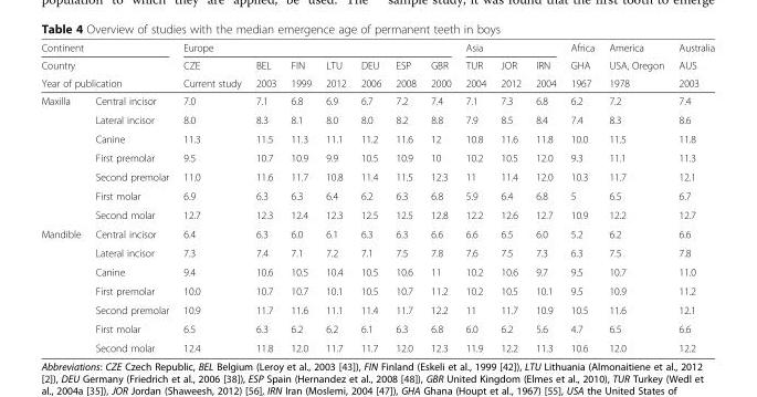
<table><thead><tr><td colspan="2">Continent</td><td colspan="7">Europe</td><td colspan="3">Asia</td><td rowspan="3">Africa GHA 1967</td><td rowspan="3">America USA, Oregon 1978</td><td rowspan="3">Australia AUS 2003</td></tr><tr><td>Country</td><td></td><td rowspan="2">CZE Current study</td><td rowspan="2">BEL 2003</td><td rowspan="2">FIN 1999</td><td rowspan="2">LTU 2012</td><td rowspan="2">DEU 2006</td><td rowspan="2">ESP 2008</td><td rowspan="2">GBR 2000</td><td rowspan="2">TUR 2004</td><td rowspan="2">JOR 2012</td><td rowspan="2">IRN 2004</td></tr><tr><td colspan="2">Year of publication</td></tr></thead><tbody><tr><td rowspan="7">Maxilla</td><td>Central incisor</td><td>7.0</td><td>7.1</td><td>6.8</td><td>6.9</td><td>6.7</td><td>7.2</td><td>7.4</td><td>7.1</td><td>7.3</td><td>6.8</td><td>6.2</td><td>7.2</td><td>7.4</td></tr><tr><td>Lateral incisor</td><td>8.0</td><td>8.3</td><td>8.1</td><td>8.0</td><td>8.0</td><td>8.2</td><td>8.8</td><td>7.9</td><td>8.5</td><td>8.4</td><td>7.4</td><td>8.3</td><td>8.6</td></tr><tr><td>Canine</td><td>11.3</td><td>11.5</td><td>11.3</td><td>11.1</td><td>11.2</td><td>11.6</td><td>12</td><td>10.8</td><td>11.6</td><td>11.8</td><td>10.0</td><td>11.5</td><td>11.8</td></tr><tr><td>First premolar</td><td>9.5</td><td>10.7</td><td>10.9</td><td>9.9</td><td>10.5</td><td>10.9</td><td>10</td><td>10.2</td><td>10.5</td><td>12.0</td><td>9.3</td><td>11.1</td><td>11.3</td></tr><tr><td>Second premolar</td><td>11.0</td><td>11.6</td><td>11.7</td><td>10.8</td><td>11.4</td><td>11.5</td><td>12.3</td><td>11</td><td>11.4</td><td>12.0</td><td>10.3</td><td>11.7</td><td>12.1</td></tr><tr><td>First molar</td><td>6.9</td><td>6.3</td><td>6.3</td><td>6.4</td><td>6.2</td><td>6.3</td><td>6.8</td><td>5.9</td><td>6.4</td><td>6.8</td><td>5</td><td>6.5</td><td>6.7</td></tr><tr><td>Second molar</td><td>12.7</td><td>12.3</td><td>12.4</td><td>12.3</td><td>12.5</td><td>12.5</td><td>12.8</td><td>12.2</td><td>12.6</td><td>12.7</td><td>10.9</td><td>12.2</td><td>12.7</td></tr><tr><td rowspan="7">Mandible</td><td>Central incisor</td><td>6.4</td><td>6.3</td><td>6.0</td><td>6.1</td><td>6.3</td><td>6.3</td><td>6.6</td><td>6.6</td><td>6.5</td><td>6.0</td><td>5.2</td><td>6.2</td><td>6.6</td></tr><tr><td>Lateral incisor</td><td>7.3</td><td>7.4</td><td>7.1</td><td>7.2</td><td>7.1</td><td>7.5</td><td>7.8</td><td>7.6</td><td>7.5</td><td>7.3</td><td>6.3</td><td>7.5</td><td>7.8</td></tr><tr><td>Canine</td><td>9.4</td><td>10.6</td><td>10.5</td><td>10.4</td><td>10.5</td><td>10.6</td><td>11</td><td>10.2</td><td>10.6</td><td>9.7</td><td>9.5</td><td>10.7</td><td>11.0</td></tr><tr><td>First premolar</td><td>10.0</td><td>10.7</td><td>10.7</td><td>10.1</td><td>10.5</td><td>10.7</td><td>11.2</td><td>10.2</td><td>10.5</td><td>10.1</td><td>9.5</td><td>10.9</td><td>11.2</td></tr><tr><td>Second premolar</td><td>10.9</td><td>11.7</td><td>11.6</td><td>11.1</td><td>11.4</td><td>11.7</td><td>12.2</td><td>11</td><td>11.7</td><td>10.9</td><td>10.5</td><td>11.6</td><td>12.1</td></tr><tr><td>First molar</td><td>6.5</td><td>6.3</td><td>6.2</td><td>6.2</td><td>6.1</td><td>6.3</td><td>6.8</td><td>6.0</td><td>6.2</td><td>5.6</td><td>4.7</td><td>6.5</td><td>6.6</td></tr><tr><td>Second molar</td><td>12.4</td><td>11.8</td><td>12.0</td><td>11.7</td><td>11.7</td><td>12.0</td><td>12.3</td><td>11.9</td><td>12.2</td><td>11.3</td><td>10.6</td><td>12.0</td><td>12.2</td></tr></tbody></table>